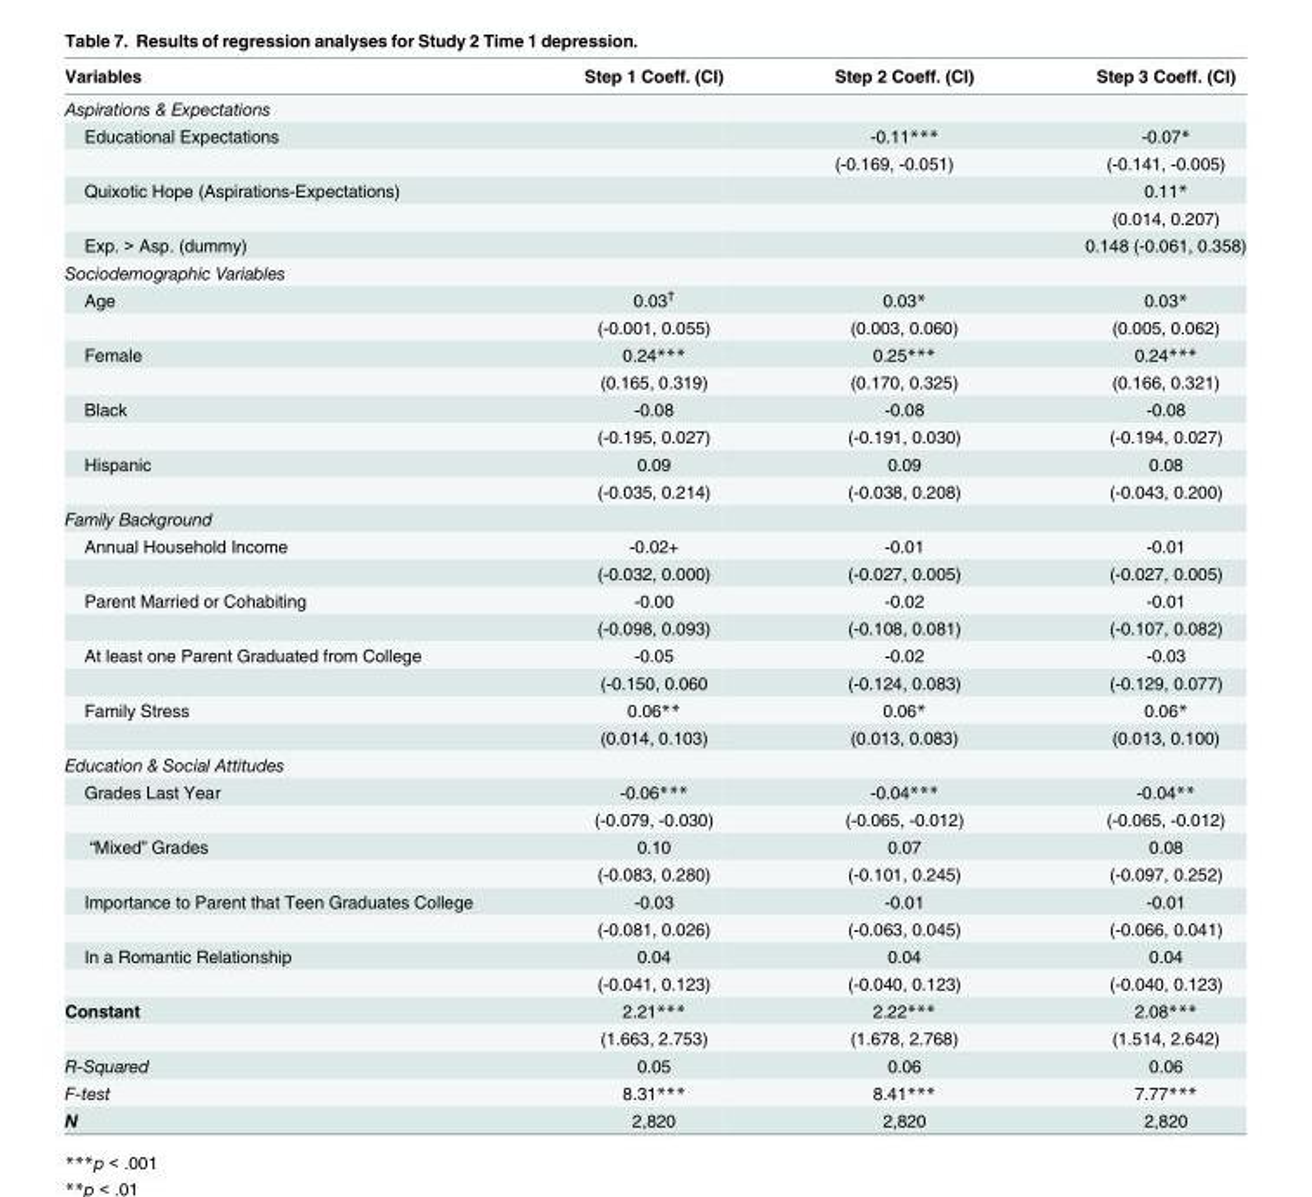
<table><thead><tr><td>Variables</td><td>Step 1 Coeff. (CI)</td><td>Step 2 Coeff. (CI)</td><td>Step 3 Coeff. (CI)</td></tr></thead><tbody><tr><td colspan="4">Aspirations &amp; Expectations</td></tr><tr><td rowspan="2">Educational Expectations</td><td></td><td>-0.11***</td><td>-0.07*</td></tr><tr><td></td><td>(-0.169, -0.051)</td><td>(-0.141, -0.005)</td></tr><tr><td rowspan="2">Quixotic Hope (Aspirations-Expectations)</td><td></td><td></td><td>0.11*</td></tr><tr><td></td><td></td><td>(0.014, 0.207)</td></tr><tr><td>Exp. &gt; Asp. (dummy)</td><td></td><td></td><td>0.148 (-0.061, 0.358)</td></tr><tr><td colspan="4">Sociodemographic Variables</td></tr><tr><td rowspan="2">Age</td><td>0.03<sup>†</sup></td><td>0.03*</td><td>0.03*</td></tr><tr><td>(-0.001, 0.055)</td><td>(0.003, 0.060)</td><td>(0.005, 0.062)</td></tr><tr><td rowspan="2">Female</td><td>0.24***</td><td>0.25***</td><td>0.24***</td></tr><tr><td>(0.165, 0.319)</td><td>(0.170, 0.325)</td><td>(0.166, 0.321)</td></tr><tr><td rowspan="2">Black</td><td>-0.08</td><td>-0.08</td><td>-0.08</td></tr><tr><td>(-0.195, 0.027)</td><td>(-0.191, 0.030)</td><td>(-0.194, 0.027)</td></tr><tr><td rowspan="2">Hispanic</td><td>0.09</td><td>0.09</td><td>0.08</td></tr><tr><td>(-0.035, 0.214)</td><td>(-0.038, 0.208)</td><td>(-0.043, 0.200)</td></tr><tr><td colspan="4">Family Background</td></tr><tr><td rowspan="2">Annual Household Income</td><td>-0.02+</td><td>-0.01</td><td>-0.01</td></tr><tr><td>(-0.032, 0.000)</td><td>(-0.027, 0.005)</td><td>(-0.027, 0.005)</td></tr><tr><td rowspan="2">Parent Married or Cohabiting</td><td>-0.00</td><td>-0.02</td><td>-0.01</td></tr><tr><td>(-0.098, 0.093)</td><td>(-0.108, 0.081)</td><td>(-0.107, 0.082)</td></tr><tr><td rowspan="2">At least one Parent Graduated from College</td><td>-0.05</td><td>-0.02</td><td>-0.03</td></tr><tr><td>(-0.150, 0.060</td><td>(-0.124, 0.083)</td><td>(-0.129, 0.077)</td></tr><tr><td rowspan="2">Family Stress</td><td>0.06**</td><td>0.06*</td><td>0.06*</td></tr><tr><td>(0.014, 0.103)</td><td>(0.013, 0.083)</td><td>(0.013, 0.100)</td></tr><tr><td colspan="4">Education &amp; Social Attitudes</td></tr><tr><td rowspan="2">Grades Last Year</td><td>-0.06***</td><td>-0.04***</td><td>-0.04**</td></tr><tr><td>(-0.079, -0.030)</td><td>(-0.065, -0.012)</td><td>(-0.065, -0.012)</td></tr><tr><td rowspan="2">“Mixed” Grades</td><td>0.10</td><td>0.07</td><td>0.08</td></tr><tr><td>(-0.083, 0.280)</td><td>(-0.101, 0.245)</td><td>(-0.097, 0.252)</td></tr><tr><td rowspan="2">Importance to Parent that Teen Graduates College</td><td>-0.03</td><td>-0.01</td><td>-0.01</td></tr><tr><td>(-0.081, 0.026)</td><td>(-0.063, 0.045)</td><td>(-0.066, 0.041)</td></tr><tr><td rowspan="2">In a Romantic Relationship</td><td>0.04</td><td>0.04</td><td>0.04</td></tr><tr><td>(-0.041, 0.123)</td><td>(-0.040, 0.123)</td><td>(-0.040, 0.123)</td></tr><tr><td rowspan="2">Constant</td><td>2.21***</td><td>2.22***</td><td>2.08***</td></tr><tr><td>(1.663, 2.753)</td><td>(1.678, 2.768)</td><td>(1.514, 2.642)</td></tr><tr><td>R-Squared</td><td>0.05</td><td>0.06</td><td>0.06</td></tr><tr><td>F-test</td><td>8.31***</td><td>8.41***</td><td>7.77***</td></tr><tr><td>N</td><td>2,820</td><td>2,820</td><td>2,820</td></tr></tbody></table>